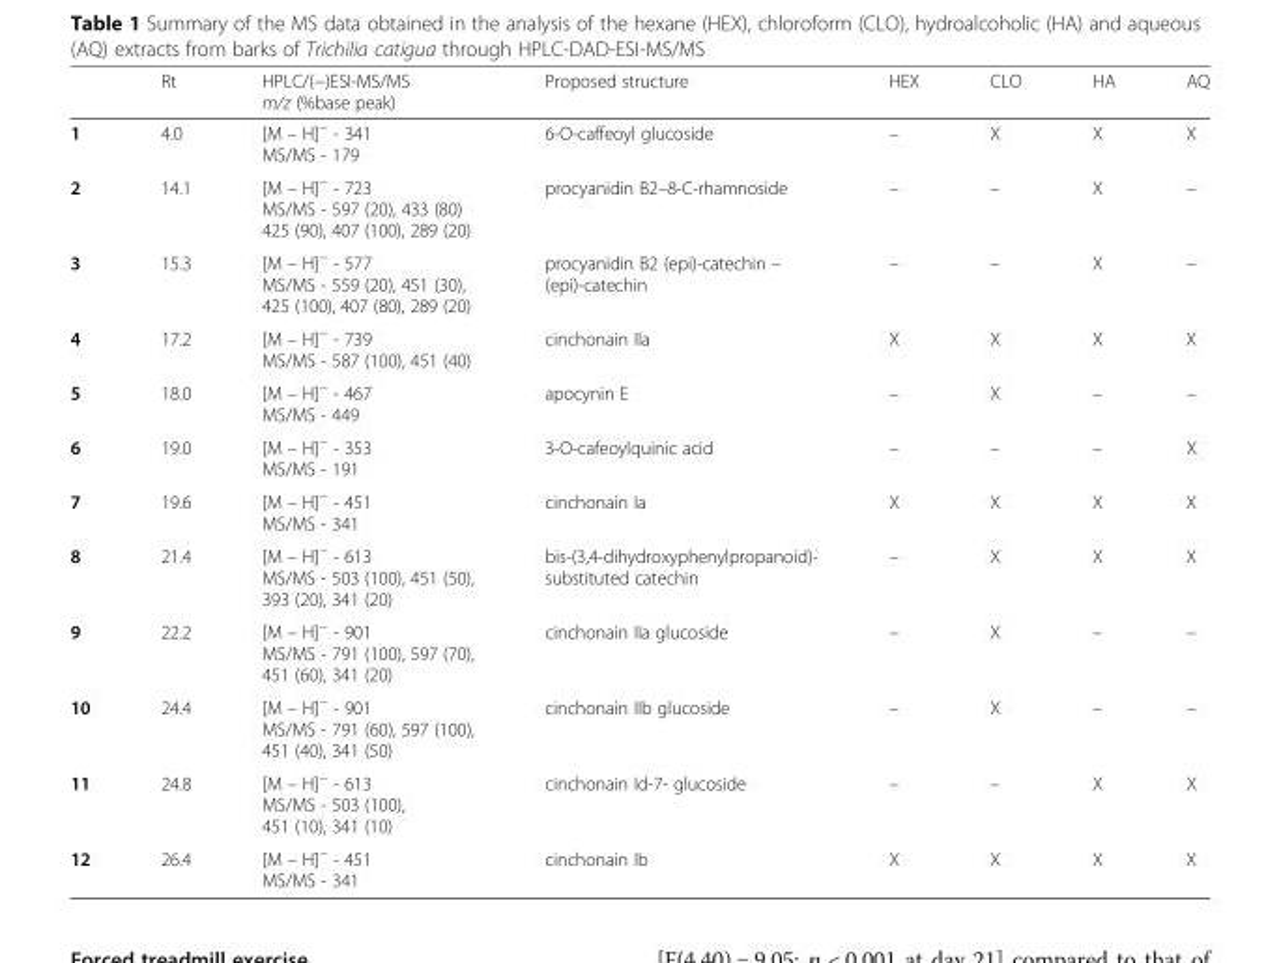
<table><thead><tr><td></td><td>Rt</td><td>HPLC/(−)ESI-MS/MS m/z (%base peak)</td><td>Proposed structure</td><td>HEX</td><td>CLO</td><td>HA</td><td>AQ</td></tr></thead><tbody><tr><td>1</td><td>4.0</td><td>[M – H]<sup>−</sup> - 341 MS/MS - 179</td><td>6-O-caffeoyl glucoside</td><td>–</td><td>X</td><td>X</td><td>X</td></tr><tr><td>2</td><td>14.1</td><td>[M – H]<sup>−</sup> - 723 MS/MS - 597 (20), 433 (80) 425 (90), 407 (100), 289 (20)</td><td>procyanidin B2–8-C-rhamnoside</td><td>–</td><td>–</td><td>X</td><td>–</td></tr><tr><td>3</td><td>15.3</td><td>[M – H]<sup>−</sup> - 577 MS/MS - 559 (20), 451 (30), 425 (100), 407 (80), 289 (20)</td><td>procyanidin B2 (epi)-catechin – (epi)-catechin</td><td>–</td><td>–</td><td>X</td><td>–</td></tr><tr><td>4</td><td>17.2</td><td>[M – H]<sup>−</sup> - 739 MS/MS - 587 (100), 451 (40)</td><td>cinchonain IIa</td><td>X</td><td>X</td><td>X</td><td>X</td></tr><tr><td>5</td><td>18.0</td><td>[M – H]<sup>−</sup> - 467 MS/MS - 449</td><td>apocynin E</td><td>–</td><td>X</td><td>–</td><td>–</td></tr><tr><td>6</td><td>19.0</td><td>[M – H]<sup>−</sup> - 353 MS/MS - 191</td><td>3-O-cafeoylquinic acid</td><td>–</td><td>–</td><td>–</td><td>X</td></tr><tr><td>7</td><td>19.6</td><td>[M – H]<sup>−</sup> - 451 MS/MS - 341</td><td>cinchonain Ia</td><td>X</td><td>X</td><td>X</td><td>X</td></tr><tr><td>8</td><td>21.4</td><td>[M – H]<sup>−</sup> - 613 MS/MS - 503 (100), 451 (50), 393 (20), 341 (20)</td><td>bis-(3,4-dihydroxyphenylpropanoid)- substituted catechin</td><td>–</td><td>X</td><td>X</td><td>X</td></tr><tr><td>9</td><td>22.2</td><td>[M – H]<sup>−</sup> - 901 MS/MS - 791 (100), 597 (70), 451 (60), 341 (20)</td><td>cinchonain IIa glucoside</td><td>–</td><td>X</td><td>–</td><td>–</td></tr><tr><td>10</td><td>24.4</td><td>[M – H]<sup>−</sup> - 901 MS/MS - 791 (60), 597 (100), 451 (40), 341 (50)</td><td>cinchonain IIb glucoside</td><td>–</td><td>X</td><td>–</td><td>–</td></tr><tr><td>11</td><td>24.8</td><td>[M – H]<sup>−</sup> - 613 MS/MS - 503 (100), 451 (10), 341 (10)</td><td>cinchonain Id-7- glucoside</td><td>–</td><td>–</td><td>X</td><td>X</td></tr><tr><td>12</td><td>26.4</td><td>[M – H]<sup>−</sup> - 451 MS/MS - 341</td><td>cinchonain Ib</td><td>X</td><td>X</td><td>X</td><td>X</td></tr></tbody></table>